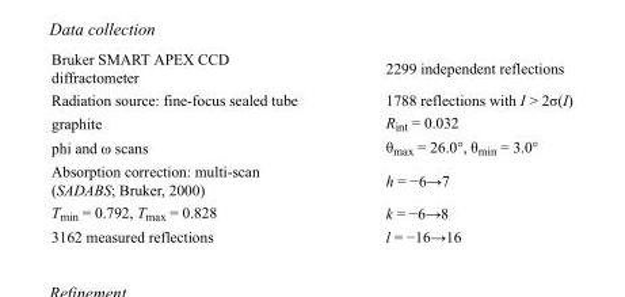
<table><tbody><tr><td>Bruker SMART APEX CCD diffractometer</td><td>2299 independent reflections</td></tr><tr><td>Radiation source: fine-focus sealed tube</td><td>1788 reflections with I &gt; 2σ(I)</td></tr><tr><td>graphite</td><td>R<sub>int</sub> = 0.032</td></tr><tr><td>phi and ω scans</td><td>θ<sub>max</sub> = 26.0°, θ<sub>min</sub> = 3.0°</td></tr><tr><td>Absorption correction: multi-scan (SADABS; Bruker, 2000)</td><td>h = −6→7</td></tr><tr><td>T<sub>min</sub> = 0.792, T<sub>max</sub> = 0.828</td><td>k = −6→8</td></tr><tr><td>3162 measured reflections</td><td>l = −16→16</td></tr></tbody></table>